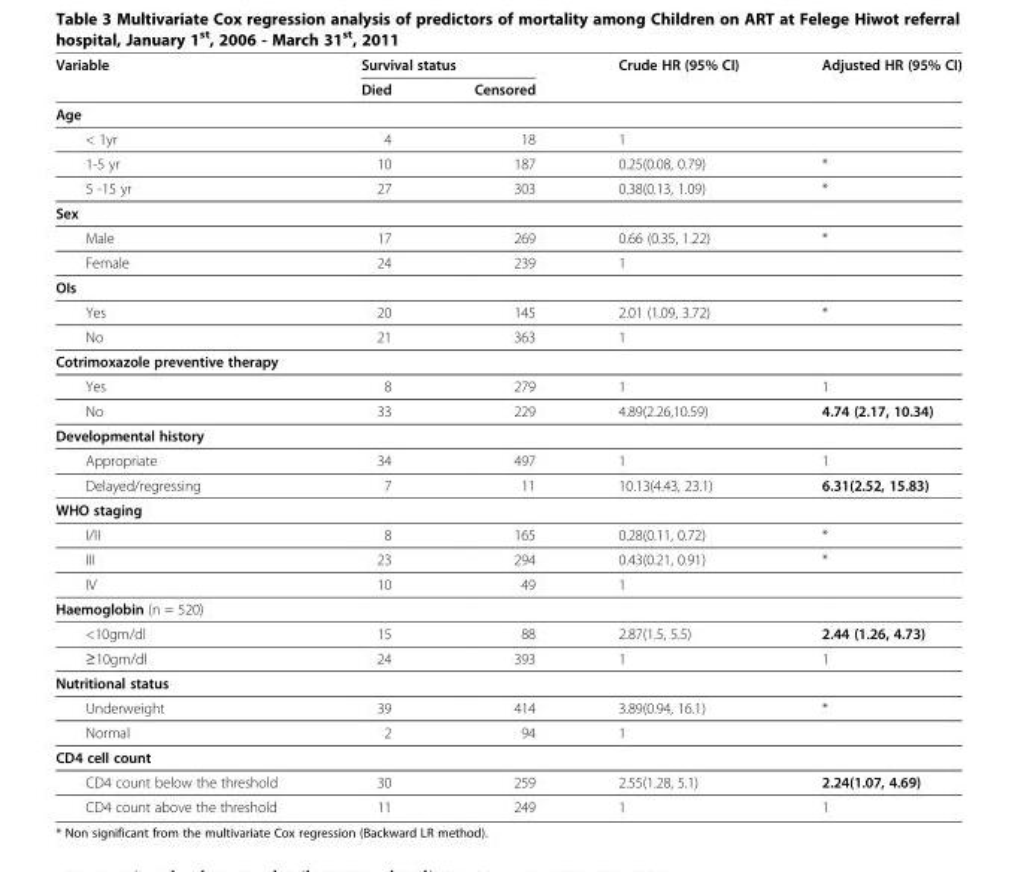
<table><thead><tr><td rowspan="2">Variable</td><td colspan="2">Survival status</td><td rowspan="2">Crude HR (95% CI)</td><td rowspan="2">Adjusted HR (95% CI)</td></tr><tr><td>Died</td><td>Censored</td></tr></thead><tbody><tr><td colspan="5">Age</td></tr><tr><td>&lt; 1yr</td><td>4</td><td>18</td><td>1</td><td></td></tr><tr><td>1-5 yr</td><td>10</td><td>187</td><td>0.25(0.08, 0.79)</td><td>*</td></tr><tr><td>5 -15 yr</td><td>27</td><td>303</td><td>0.38(0.13, 1.09)</td><td>*</td></tr><tr><td colspan="5">Sex</td></tr><tr><td>Male</td><td>17</td><td>269</td><td>0.66 (0.35, 1.22)</td><td>*</td></tr><tr><td>Female</td><td>24</td><td>239</td><td>1</td><td></td></tr><tr><td colspan="5">OIs</td></tr><tr><td>Yes</td><td>20</td><td>145</td><td>2.01 (1.09, 3.72)</td><td>*</td></tr><tr><td>No</td><td>21</td><td>363</td><td>1</td><td></td></tr><tr><td colspan="5">Cotrimoxazole preventive therapy</td></tr><tr><td>Yes</td><td>8</td><td>279</td><td>1</td><td>1</td></tr><tr><td>No</td><td>33</td><td>229</td><td>4.89(2.26,10.59)</td><td>4.74 (2.17, 10.34)</td></tr><tr><td colspan="5">Developmental history</td></tr><tr><td>Appropriate</td><td>34</td><td>497</td><td>1</td><td>1</td></tr><tr><td>Delayed/regressing</td><td>7</td><td>11</td><td>10.13(4.43, 23.1)</td><td>6.31(2.52, 15.83)</td></tr><tr><td colspan="5">WHO staging</td></tr><tr><td>I/II</td><td>8</td><td>165</td><td>0.28(0.11, 0.72)</td><td>*</td></tr><tr><td>III</td><td>23</td><td>294</td><td>0.43(0.21, 0.91)</td><td>*</td></tr><tr><td>IV</td><td>10</td><td>49</td><td>1</td><td></td></tr><tr><td colspan="5">Haemoglobin (n = 520)</td></tr><tr><td>&lt;10gm/dl</td><td>15</td><td>88</td><td>2.87(1.5, 5.5)</td><td>2.44 (1.26, 4.73)</td></tr><tr><td>≥10gm/dl</td><td>24</td><td>393</td><td>1</td><td>1</td></tr><tr><td colspan="5">Nutritional status</td></tr><tr><td>Underweight</td><td>39</td><td>414</td><td>3.89(0.94, 16.1)</td><td>*</td></tr><tr><td>Normal</td><td>2</td><td>94</td><td>1</td><td></td></tr><tr><td colspan="5">CD4 cell count</td></tr><tr><td>CD4 count below the threshold</td><td>30</td><td>259</td><td>2.55(1.28, 5.1)</td><td>2.24(1.07, 4.69)</td></tr><tr><td>CD4 count above the threshold</td><td>11</td><td>249</td><td>1</td><td>1</td></tr></tbody></table>